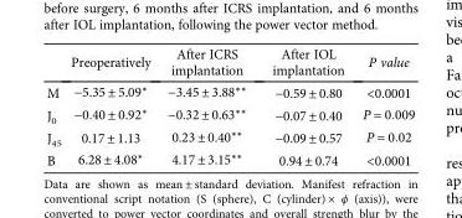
<table><thead><tr><td></td><td>Preoperatively</td><td>After ICRS implantation</td><td>After IOL implantation</td><td>P value</td></tr></thead><tbody><tr><td>M</td><td>−5.35 ± 5.09∗</td><td>−3.45 ± 3.88∗∗</td><td>−0.59 ± 0.80</td><td>&lt;0.0001</td></tr><tr><td>J<sub>0</sub></td><td>−0.40 ± 0.92∗</td><td>−0.32 ± 0.63∗∗</td><td>−0.07 ± 0.40</td><td>P = 0 009</td></tr><tr><td>J<sub>45</sub></td><td>0.17 ± 1.13</td><td>0.23 ± 0.40∗∗</td><td>−0.09 ± 0.57</td><td>P = 0 02</td></tr><tr><td>B</td><td>6.28 ± 4.08∗</td><td>4.17 ± 3.15∗∗</td><td>0.94 ± 0.74</td><td>&lt;0.0001</td></tr></tbody></table>